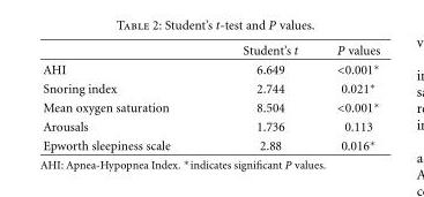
<table><thead><tr><td></td><td>Student’s t</td><td>P values</td></tr></thead><tbody><tr><td>AHI</td><td>6.649</td><td>&lt;0.001∗</td></tr><tr><td>Snoring index</td><td>2.744</td><td>0.021∗</td></tr><tr><td>Mean oxygen saturation</td><td>8.504</td><td>&lt;0.001∗</td></tr><tr><td>Arousals</td><td>1.736</td><td>0.113</td></tr><tr><td>Epworth sleepiness scale</td><td>2.88</td><td>0.016∗</td></tr></tbody></table>